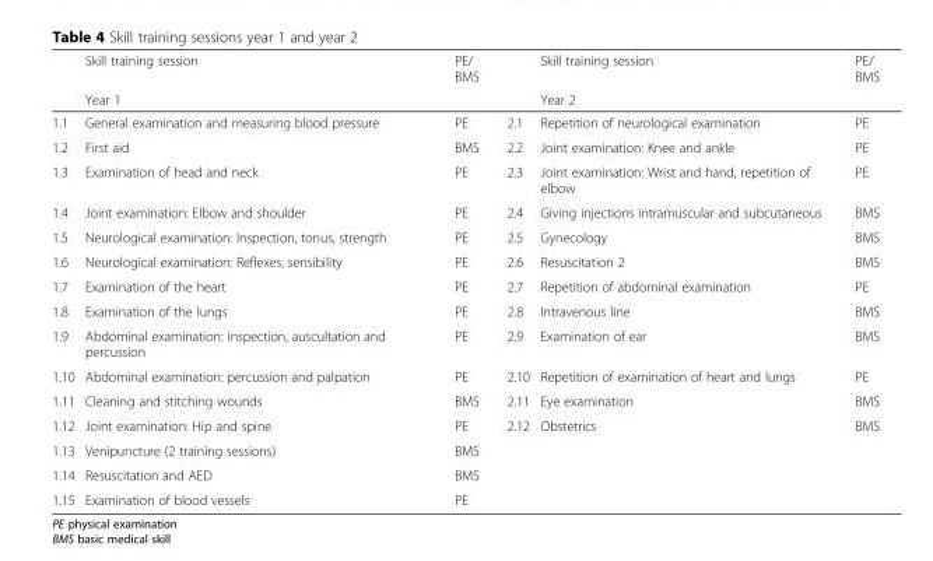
<table><thead><tr><td rowspan="2"></td><td rowspan="2">Skill training session Year 1</td><td rowspan="2">PE/ BMS</td><td rowspan="2"></td><td rowspan="2">Skill training session Year 2</td><td rowspan="2">PE/ BMS</td></tr><tr></tr></thead><tbody><tr><td>1.1</td><td>General examination and measuring blood pressure</td><td>PE</td><td>2.1</td><td>Repetition of neurological examination</td><td>PE</td></tr><tr><td>1.2</td><td>First aid</td><td>BMS</td><td>2.2</td><td>Joint examination: Knee and ankle</td><td>PE</td></tr><tr><td>1.3</td><td>Examination of head and neck</td><td>PE</td><td>2.3</td><td>Joint examination: Wrist and hand, repetition of elbow</td><td>PE</td></tr><tr><td>1.4</td><td>Joint examination: Elbow and shoulder</td><td>PE</td><td>2.4</td><td>Giving injections intramuscular and subcutaneous</td><td>BMS</td></tr><tr><td>1.5</td><td>Neurological examination: Inspection, tonus, strength</td><td>PE</td><td>2.5</td><td>Gynecology</td><td>BMS</td></tr><tr><td>1.6</td><td>Neurological examination: Reflexes, sensibility</td><td>PE</td><td>2.6</td><td>Resuscitation 2</td><td>BMS</td></tr><tr><td>1.7</td><td>Examination of the heart</td><td>PE</td><td>2.7</td><td>Repetition of abdominal examination</td><td>PE</td></tr><tr><td>1.8</td><td>Examination of the lungs</td><td>PE</td><td>2.8</td><td>Intravenous line</td><td>BMS</td></tr><tr><td>1.9</td><td>Abdominal examination: inspection, auscultation and percussion</td><td>PE</td><td>2.9</td><td>Examination of ear</td><td>BMS</td></tr><tr><td>1.10</td><td>Abdominal examination: percussion and palpation</td><td>PE</td><td>2.10</td><td>Repetition of examination of heart and lungs</td><td>PE</td></tr><tr><td>1.11</td><td>Cleaning and stitching wounds</td><td>BMS</td><td>2.11</td><td>Eye examination</td><td>BMS</td></tr><tr><td>1.12</td><td>Joint examination: Hip and spine</td><td>PE</td><td>2.12</td><td>Obstetrics</td><td>BMS</td></tr><tr><td>1.13</td><td>Venipuncture (2 training sessions)</td><td>BMS</td><td></td><td></td><td></td></tr><tr><td>1.14</td><td>Resuscitation and AED</td><td>BMS</td><td></td><td></td><td></td></tr><tr><td>1.15</td><td>Examination of blood vessels</td><td>PE</td><td></td><td></td><td></td></tr></tbody></table>